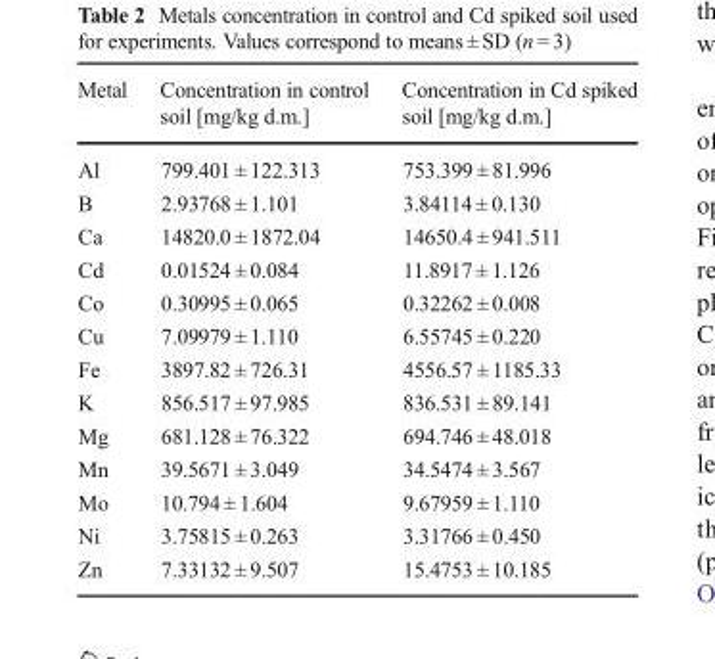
<table><thead><tr><td>Metal</td><td>Concentration in control soil [mg/kg d.m.]</td><td>Concentration in Cd spiked soil [mg/kg d.m.]</td></tr></thead><tbody><tr><td>Al</td><td>799.401 ± 122.313</td><td>753.399 ± 81.996</td></tr><tr><td>B</td><td>2.93768 ± 1.101</td><td>3.84114 ± 0.130</td></tr><tr><td>Ca</td><td>14820.0 ± 1872.04</td><td>14650.4 ± 941.511</td></tr><tr><td>Cd</td><td>0.01524 ± 0.084</td><td>11.8917 ± 1.126</td></tr><tr><td>Co</td><td>0.30995 ± 0.065</td><td>0.32262 ± 0.008</td></tr><tr><td>Cu</td><td>7.09979 ± 1.110</td><td>6.55745 ± 0.220</td></tr><tr><td>Fe</td><td>3897.82 ± 726.31</td><td>4556.57 ± 1185.33</td></tr><tr><td>K</td><td>856.517 ± 97.985</td><td>836.531 ± 89.141</td></tr><tr><td>Mg</td><td>681.128 ± 76.322</td><td>694.746 ± 48.018</td></tr><tr><td>Mn</td><td>39.5671 ± 3.049</td><td>34.5474 ± 3.567</td></tr><tr><td>Mo</td><td>10.794 ± 1.604</td><td>9.67959 ± 1.110</td></tr><tr><td>Ni</td><td>3.75815 ± 0.263</td><td>3.31766 ± 0.450</td></tr><tr><td>Zn</td><td>7.33132 ± 9.507</td><td>15.4753 ± 10.185</td></tr></tbody></table>